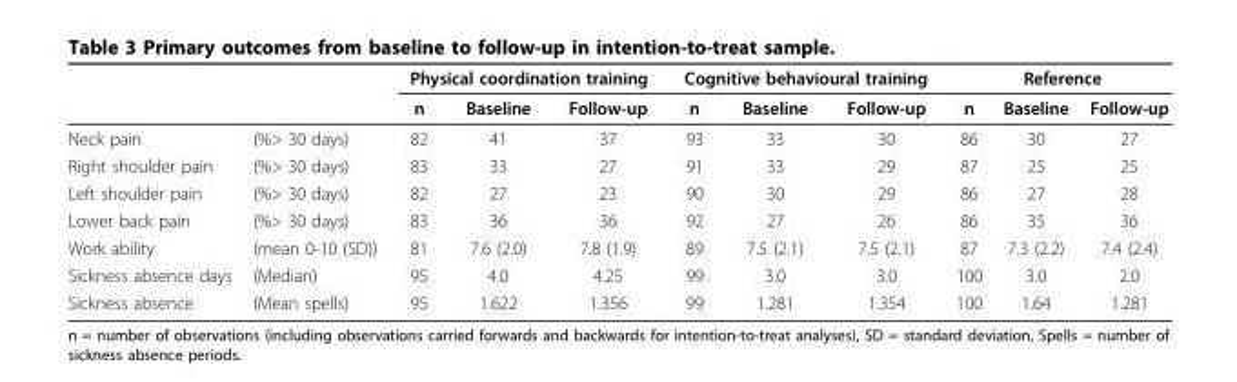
<table><thead><tr><td rowspan="2"></td><td rowspan="2"></td><td colspan="3">Physical coordination training</td><td colspan="3">Cognitive behavioural training</td><td colspan="3">Reference</td></tr><tr><td>n</td><td>Baseline</td><td>Follow-up</td><td>n</td><td>Baseline</td><td>Follow-up</td><td>n</td><td>Baseline</td><td>Follow-up</td></tr></thead><tbody><tr><td>Neck pain</td><td>(%&gt; 30 days)</td><td>82</td><td>41</td><td>37</td><td>93</td><td>33</td><td>30</td><td>86</td><td>30</td><td>27</td></tr><tr><td>Right shoulder pain</td><td>(%&gt; 30 days)</td><td>83</td><td>33</td><td>27</td><td>91</td><td>33</td><td>29</td><td>87</td><td>25</td><td>25</td></tr><tr><td>Left shoulder pain</td><td>(%&gt; 30 days)</td><td>82</td><td>27</td><td>23</td><td>90</td><td>30</td><td>29</td><td>86</td><td>27</td><td>28</td></tr><tr><td>Lower back pain</td><td>(%&gt; 30 days)</td><td>83</td><td>36</td><td>36</td><td>92</td><td>27</td><td>26</td><td>86</td><td>35</td><td>36</td></tr><tr><td>Work ability</td><td>(mean 0-10 (SD))</td><td>81</td><td>7.6 (2.0)</td><td>7.8 (1.9)</td><td>89</td><td>7.5 (2.1)</td><td>7.5 (2.1)</td><td>87</td><td>7.3 (2.2)</td><td>7.4 (2.4)</td></tr><tr><td>Sickness absence days</td><td>(Median)</td><td>95</td><td>4.0</td><td>4.25</td><td>99</td><td>3.0</td><td>3.0</td><td>100</td><td>3.0</td><td>2.0</td></tr><tr><td>Sickness absence</td><td>(Mean spells)</td><td>95</td><td>1.622</td><td>1.356</td><td>99</td><td>1.281</td><td>1.354</td><td>100</td><td>1.64</td><td>1.281</td></tr></tbody></table>